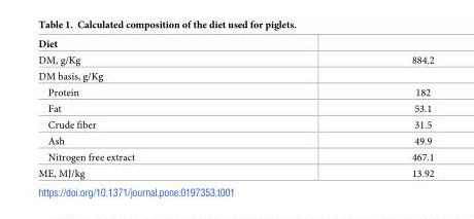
<table><thead><tr><td>Diet</td><td></td></tr></thead><tbody><tr><td>DM, g/Kg</td><td>884.2</td></tr><tr><td colspan="2">DM basis, g/Kg</td></tr><tr><td>Protein</td><td>182</td></tr><tr><td>Fat</td><td>53.1</td></tr><tr><td>Crude fiber</td><td>31.5</td></tr><tr><td>Ash</td><td>49.9</td></tr><tr><td>Nitrogen free extract</td><td>467.1</td></tr><tr><td>ME, MJ/kg</td><td>13.92</td></tr></tbody></table>